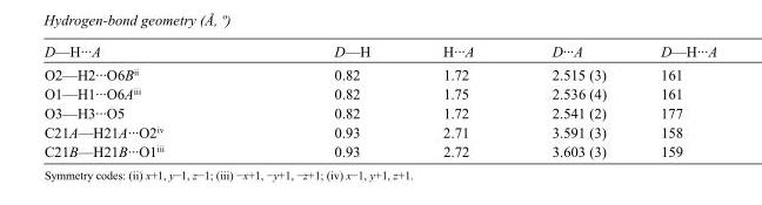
<table><tbody><tr><td>D—H···A</td><td>D—H</td><td>H···A</td><td>D···A</td><td>D—H···A</td></tr><tr><td>O2—H2···O6B<sup>ii</sup></td><td>0.82</td><td>1.72</td><td>2.515 (3)</td><td>161</td></tr><tr><td>O1—H1···O6A<sup>iii</sup></td><td>0.82</td><td>1.75</td><td>2.536 (4)</td><td>161</td></tr><tr><td>O3—H3···O5</td><td>0.82</td><td>1.72</td><td>2.541 (2)</td><td>177</td></tr><tr><td>C21A—H21A···O2<sup>iv</sup></td><td>0.93</td><td>2.71</td><td>3.591 (3)</td><td>158</td></tr><tr><td>C21B—H21B···O1<sup>iii</sup></td><td>0.93</td><td>2.72</td><td>3.603 (3)</td><td>159</td></tr></tbody></table>